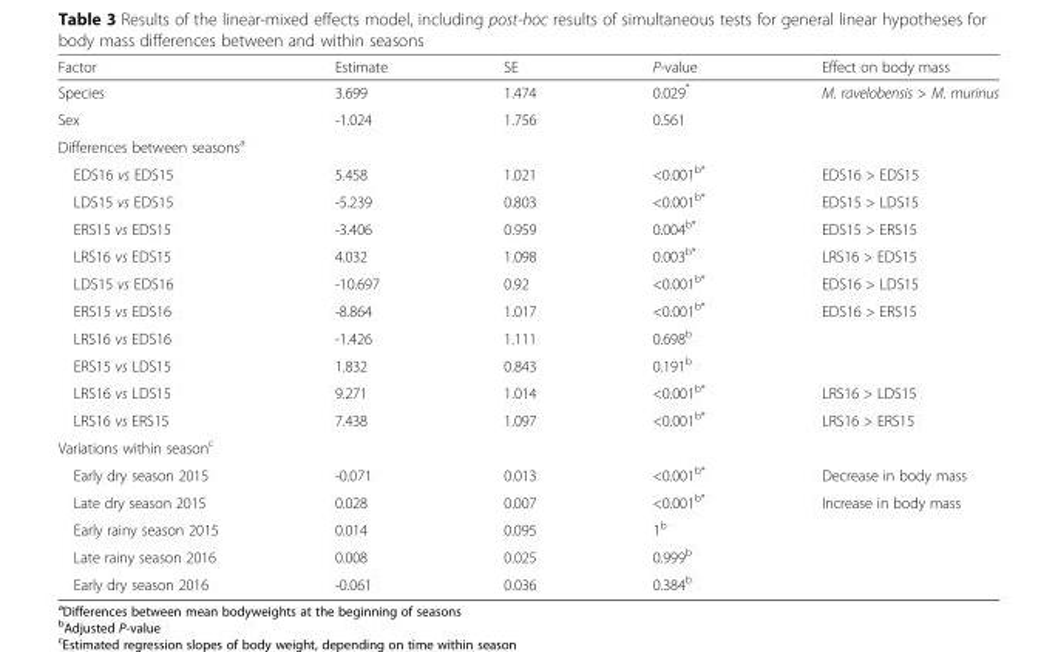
<table><thead><tr><td>Factor</td><td>Estimate</td><td>SE</td><td>P-value</td><td>Effect on body mass</td></tr></thead><tbody><tr><td>Species</td><td>3.699</td><td>1.474</td><td>0.029*</td><td>M. ravelobensis &gt; M. murinus</td></tr><tr><td>Sex</td><td>-1.024</td><td>1.756</td><td>0.561</td><td></td></tr><tr><td colspan="5">Differences between seasons<sup>a</sup></td></tr><tr><td>EDS16 vs EDS15</td><td>5.458</td><td>1.021</td><td>&lt;0.001<sup>b*</sup></td><td>EDS16 &gt; EDS15</td></tr><tr><td>LDS15 vs EDS15</td><td>-5.239</td><td>0.803</td><td>&lt;0.001<sup>b*</sup></td><td>EDS15 &gt; LDS15</td></tr><tr><td>ERS15 vs EDS15</td><td>-3.406</td><td>0.959</td><td>0.004<sup>b*</sup></td><td>EDS15 &gt; ERS15</td></tr><tr><td>LRS16 vs EDS15</td><td>4.032</td><td>1.098</td><td>0.003<sup>b*</sup></td><td>LRS16 &gt; EDS15</td></tr><tr><td>LDS15 vs EDS16</td><td>-10.697</td><td>0.92</td><td>&lt;0.001<sup>b*</sup></td><td>EDS16 &gt; LDS15</td></tr><tr><td>ERS15 vs EDS16</td><td>-8.864</td><td>1.017</td><td>&lt;0.001<sup>b*</sup></td><td>EDS16 &gt; ERS15</td></tr><tr><td>LRS16 vs EDS16</td><td>-1.426</td><td>1.111</td><td>0.698<sup>b</sup></td><td></td></tr><tr><td>ERS15 vs LDS15</td><td>1.832</td><td>0.843</td><td>0.191<sup>b</sup></td><td></td></tr><tr><td>LRS16 vs LDS15</td><td>9.271</td><td>1.014</td><td>&lt;0.001<sup>b*</sup></td><td>LRS16 &gt; LDS15</td></tr><tr><td>LRS16 vs ERS15</td><td>7.438</td><td>1.097</td><td>&lt;0.001<sup>b*</sup></td><td>LRS16 &gt; ERS15</td></tr><tr><td colspan="5">Variations within season<sup>c</sup></td></tr><tr><td>Early dry season 2015</td><td>-0.071</td><td>0.013</td><td>&lt;0.001<sup>b*</sup></td><td>Decrease in body mass</td></tr><tr><td>Late dry season 2015</td><td>0.028</td><td>0.007</td><td>&lt;0.001<sup>b*</sup></td><td>Increase in body mass</td></tr><tr><td>Early rainy season 2015</td><td>0.014</td><td>0.095</td><td>1<sup>b</sup></td><td></td></tr><tr><td>Late rainy season 2016</td><td>0.008</td><td>0.025</td><td>0.999<sup>b</sup></td><td></td></tr><tr><td>Early dry season 2016</td><td>-0.061</td><td>0.036</td><td>0.384<sup>b</sup></td><td></td></tr></tbody></table>